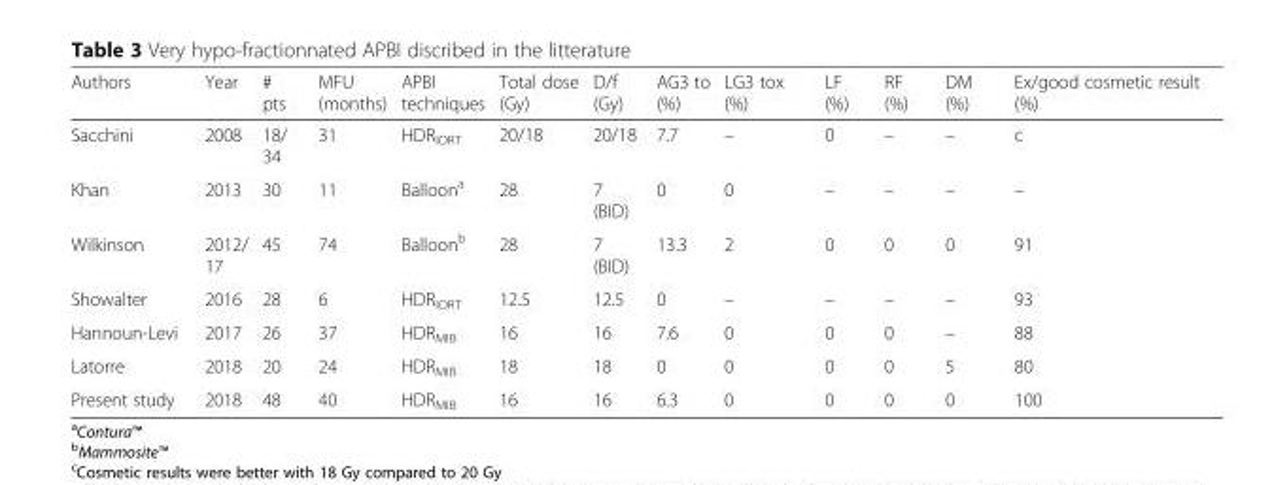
<table><thead><tr><td>Authors</td><td>Year</td><td># pts</td><td>MFU (months)</td><td>APBI techniques</td><td>Total dose (Gy)</td><td>D/f (Gy)</td><td>AG3 to (%)</td><td>LG3 tox (%)</td><td>LF (%)</td><td>RF (%)</td><td>DM (%)</td><td>Ex/good cosmetic result (%)</td></tr></thead><tbody><tr><td>Sacchini</td><td>2008</td><td>18/ 34</td><td>31</td><td>HDR<sub>IORT</sub></td><td>20/18</td><td>20/18</td><td>7.7</td><td>–</td><td>0</td><td>–</td><td>–</td><td>c</td></tr><tr><td>Khan</td><td>2013</td><td>30</td><td>11</td><td>Balloon<sup>a</sup></td><td>28</td><td>7 (BID)</td><td>0</td><td>0</td><td>–</td><td>–</td><td>–</td><td>–</td></tr><tr><td>Wilkinson</td><td>2012/ 17</td><td>45</td><td>74</td><td>Balloon<sup>b</sup></td><td>28</td><td>7 (BID)</td><td>13.3</td><td>2</td><td>0</td><td>0</td><td>0</td><td>91</td></tr><tr><td>Showalter</td><td>2016</td><td>28</td><td>6</td><td>HDR<sub>IORT</sub></td><td>12.5</td><td>12.5</td><td>0</td><td>–</td><td>–</td><td>–</td><td>–</td><td>93</td></tr><tr><td>Hannoun-Levi</td><td>2017</td><td>26</td><td>37</td><td>HDR<sub>MIB</sub></td><td>16</td><td>16</td><td>7.6</td><td>0</td><td>0</td><td>0</td><td>–</td><td>88</td></tr><tr><td>Latorre</td><td>2018</td><td>20</td><td>24</td><td>HDR<sub>MIB</sub></td><td>18</td><td>18</td><td>0</td><td>0</td><td>0</td><td>0</td><td>5</td><td>80</td></tr><tr><td>Present study</td><td>2018</td><td>48</td><td>40</td><td>HDR<sub>MIB</sub></td><td>16</td><td>16</td><td>6.3</td><td>0</td><td>0</td><td>0</td><td>0</td><td>100</td></tr></tbody></table>